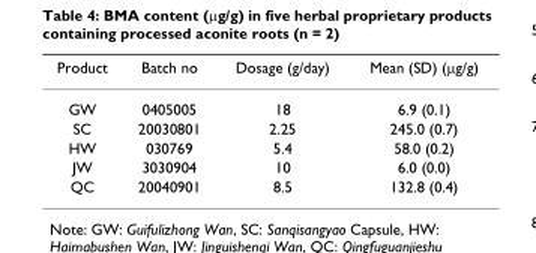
<table><thead><tr><td>Product</td><td>Batch no</td><td>Dosage (g/day)</td><td>Mean (SD) (μg/g)</td></tr></thead><tbody><tr><td>GW</td><td>0405005</td><td>18</td><td>6.9 (0.1)</td></tr><tr><td>SC</td><td>20030801</td><td>2.25</td><td>245.0 (0.7)</td></tr><tr><td>HW</td><td>030769</td><td>5.4</td><td>58.0 (0.2)</td></tr><tr><td>JW</td><td>3030904</td><td>10</td><td>6.0 (0.0)</td></tr><tr><td>QC</td><td>20040901</td><td>8.5</td><td>132.8 (0.4)</td></tr></tbody></table>